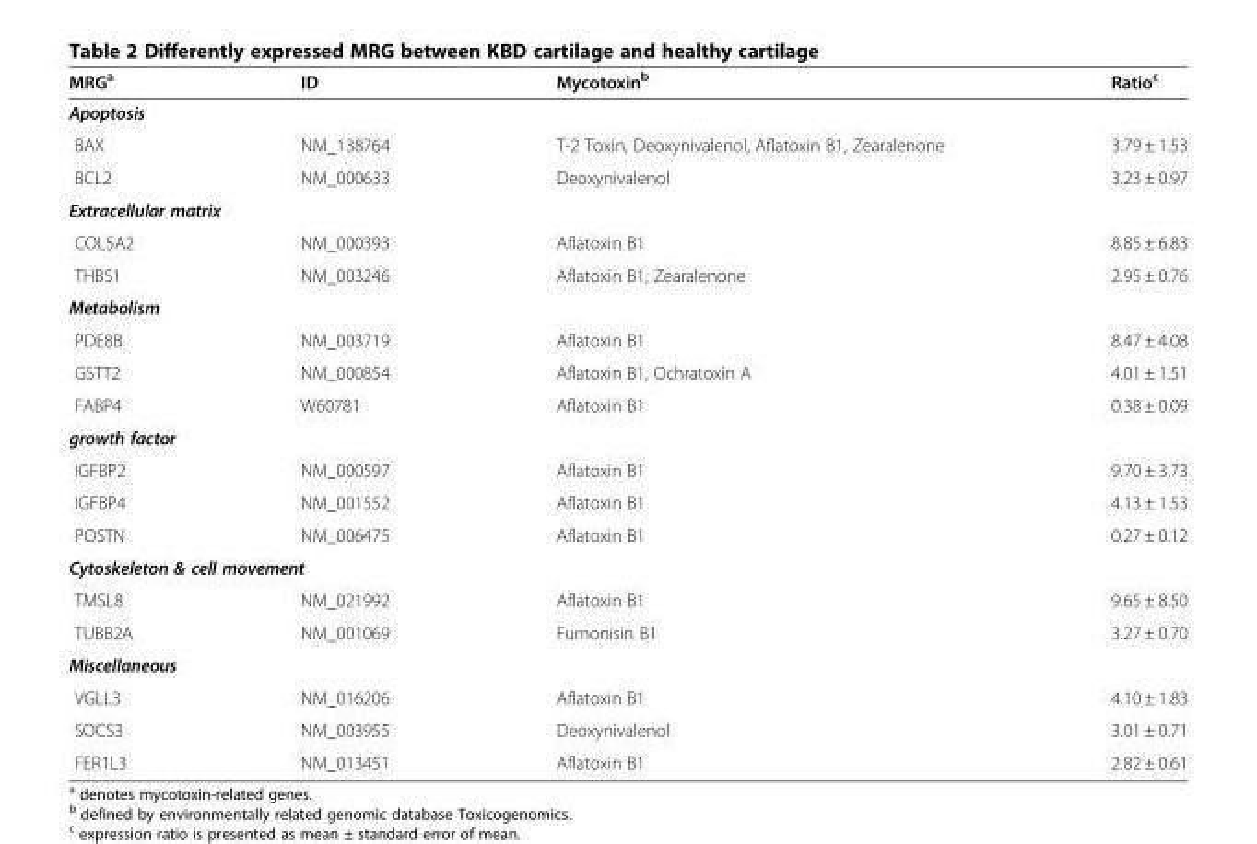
<table><thead><tr><td>MRG<sup>a</sup></td><td>ID</td><td>Mycotoxin<sup>b</sup></td><td>Ratio<sup>c</sup></td></tr></thead><tbody><tr><td colspan="4">Apoptosis</td></tr><tr><td>BAX</td><td>NM_138764</td><td>T-2 Toxin, Deoxynivalenol, Aflatoxin B1, Zearalenone</td><td>3.79 ± 1.53</td></tr><tr><td>BCL2</td><td>NM_000633</td><td>Deoxynivalenol</td><td>3.23 ± 0.97</td></tr><tr><td colspan="4">Extracellular matrix</td></tr><tr><td>COL5A2</td><td>NM_000393</td><td>Aflatoxin B1</td><td>8.85 ± 6.83</td></tr><tr><td>THBS1</td><td>NM_003246</td><td>Aflatoxin B1, Zearalenone</td><td>2.95 ± 0.76</td></tr><tr><td colspan="4">Metabolism</td></tr><tr><td>PDE8B</td><td>NM_003719</td><td>Aflatoxin B1</td><td>8.47 ± 4.08</td></tr><tr><td>GSTT2</td><td>NM_000854</td><td>Aflatoxin B1, Ochratoxin A</td><td>4.01 ± 1.51</td></tr><tr><td>FABP4</td><td>W60781</td><td>Aflatoxin B1</td><td>0.38 ± 0.09</td></tr><tr><td colspan="4">growth factor</td></tr><tr><td>IGFBP2</td><td>NM_000597</td><td>Aflatoxin B1</td><td>9.70 ± 3.73</td></tr><tr><td>IGFBP4</td><td>NM_001552</td><td>Aflatoxin B1</td><td>4.13 ± 1.53</td></tr><tr><td>POSTN</td><td>NM_006475</td><td>Aflatoxin B1</td><td>0.27 ± 0.12</td></tr><tr><td colspan="4">Cytoskeleton &amp; cell movement</td></tr><tr><td>TMSL8</td><td>NM_021992</td><td>Aflatoxin B1</td><td>9.65 ± 8.50</td></tr><tr><td>TUBB2A</td><td>NM_001069</td><td>Fumonisin B1</td><td>3.27 ± 0.70</td></tr><tr><td colspan="4">Miscellaneous</td></tr><tr><td>VGLL3</td><td>NM_016206</td><td>Aflatoxin B1</td><td>4.10 ± 1.83</td></tr><tr><td>SOCS3</td><td>NM_003955</td><td>Deoxynivalenol</td><td>3.01 ± 0.71</td></tr><tr><td>FER1L3</td><td>NM_013451</td><td>Aflatoxin B1</td><td>2.82 ± 0.61</td></tr></tbody></table>